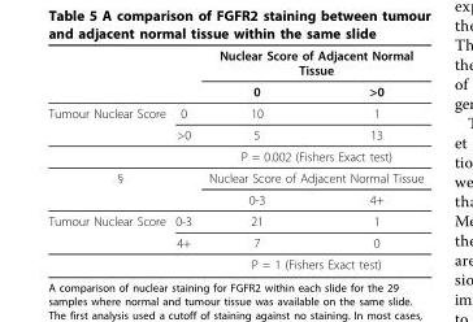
<table><thead><tr><td rowspan="2"></td><td rowspan="2"></td><td colspan="2">Nuclear Score of Adjacent Normal Tissue</td></tr><tr><td>0</td><td>&gt;0</td></tr></thead><tbody><tr><td rowspan="3">Tumour Nuclear Score</td><td>0</td><td>10</td><td>1</td></tr><tr><td>&gt;0</td><td>5</td><td>13</td></tr><tr><td></td><td colspan="2">P = 0.002 (Fishers Exact test)</td></tr><tr><td rowspan="2" colspan="2">§</td><td colspan="2">Nuclear Score of Adjacent Normal Tissue</td></tr><tr><td>0-3</td><td>4+</td></tr><tr><td rowspan="3">Tumour Nuclear Score</td><td>0-3</td><td>21</td><td>1</td></tr><tr><td>4+</td><td>7</td><td>0</td></tr><tr><td></td><td colspan="2">P = 1 (Fishers Exact test)</td></tr></tbody></table>